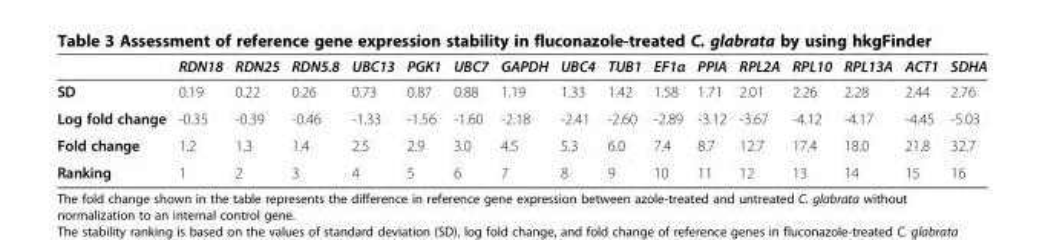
<table><thead><tr><td></td><td>RDN18</td><td>RDN25</td><td>RDN5.8</td><td>UBC13</td><td>PGK1</td><td>UBC7</td><td>GAPDH</td><td>UBC4</td><td>TUB1</td><td>EF1α</td><td>PPIA</td><td>RPL2A</td><td>RPL10</td><td>RPL13A</td><td>ACT1</td><td>SDHA</td></tr></thead><tbody><tr><td>SD</td><td>0.19</td><td>0.22</td><td>0.26</td><td>0.73</td><td>0.87</td><td>0.88</td><td>1.19</td><td>1.33</td><td>1.42</td><td>1.58</td><td>1.71</td><td>2.01</td><td>2.26</td><td>2.28</td><td>2.44</td><td>2.76</td></tr><tr><td>Log fold change</td><td>-0.35</td><td>-0.39</td><td>-0.46</td><td>-1.33</td><td>-1.56</td><td>-1.60</td><td>-2.18</td><td>-2.41</td><td>-2.60</td><td>-2.89</td><td>-3.12</td><td>-3.67</td><td>-4.12</td><td>-4.17</td><td>-4.45</td><td>-5.03</td></tr><tr><td>Fold change</td><td>1.2</td><td>1.3</td><td>1.4</td><td>2.5</td><td>2.9</td><td>3.0</td><td>4.5</td><td>5.3</td><td>6.0</td><td>7.4</td><td>8.7</td><td>12.7</td><td>17.4</td><td>18.0</td><td>21.8</td><td>32.7</td></tr><tr><td>Ranking</td><td>1</td><td>2</td><td>3</td><td>4</td><td>5</td><td>6</td><td>7</td><td>8</td><td>9</td><td>10</td><td>11</td><td>12</td><td>13</td><td>14</td><td>15</td><td>16</td></tr></tbody></table>